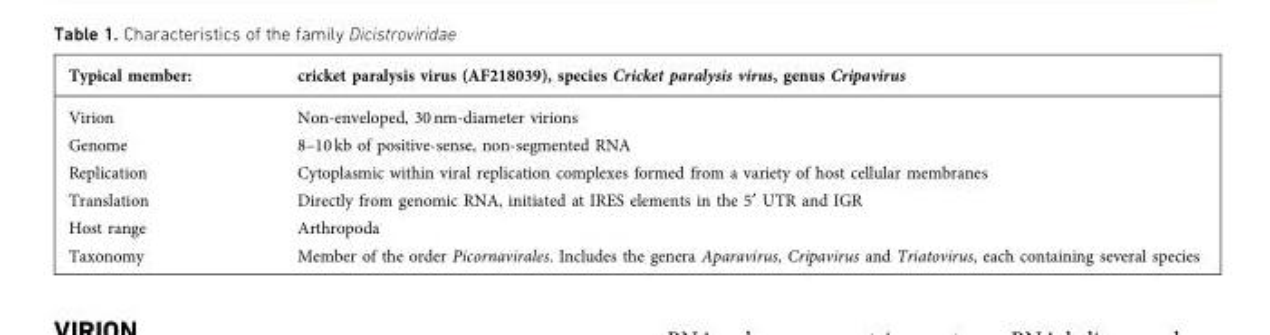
<table><thead><tr><td>Typical member:</td><td>cricket paralysis virus (AF218039), species Cricket paralysis virus, genus Cripavirus</td></tr></thead><tbody><tr><td>Virion</td><td>Non-enveloped, 30 nm-diameter virions</td></tr><tr><td>Genome</td><td>8–10 kb of positive-sense, non-segmented RNA</td></tr><tr><td>Replication</td><td>Cytoplasmic within viral replication complexes formed from a variety of host cellular membranes</td></tr><tr><td>Translation</td><td>Directly from genomic RNA, initiated at IRES elements in the 5¢ UTR and IGR</td></tr><tr><td>Host range</td><td>Arthropoda</td></tr><tr><td>Taxonomy</td><td>Member of the order Picornavirales. Includes the genera Aparavirus, Cripavirus and Triatovirus, each containing several species</td></tr></tbody></table>